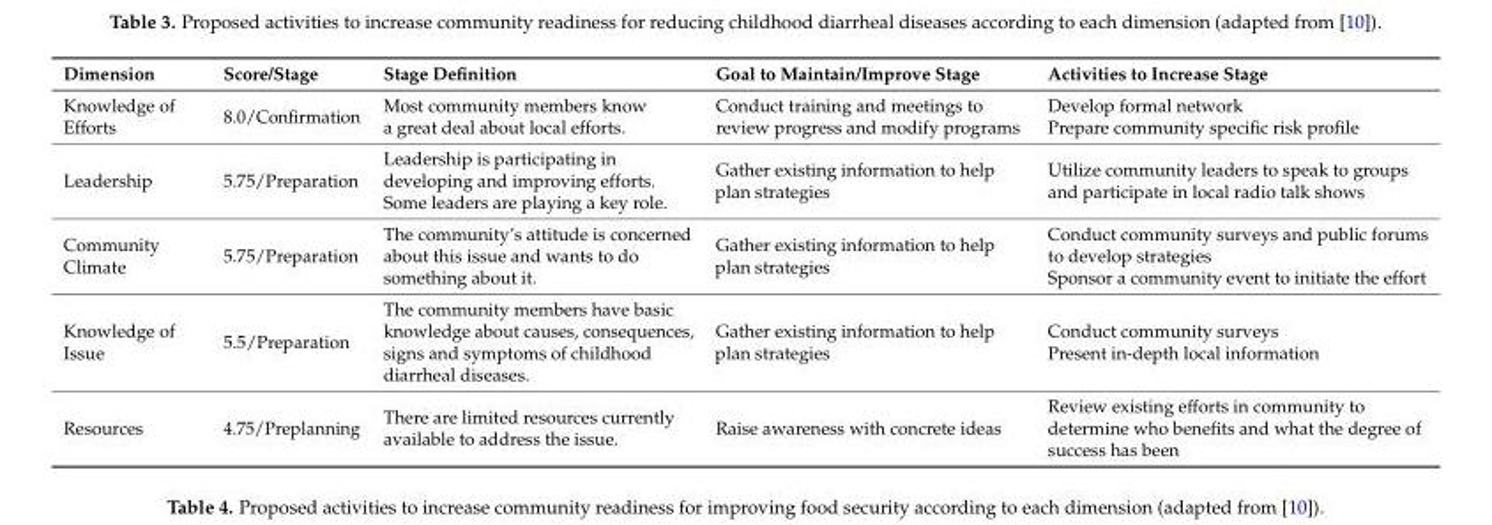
<table><thead><tr><td>Dimension</td><td>Score/Stage</td><td>Stage Definition</td><td>Goal to Maintain/Improve Stage</td><td>Activities to Increase Stage</td></tr></thead><tbody><tr><td>Knowledge of Efforts</td><td>8.0/Confirmation</td><td>Most community members know a great deal about local efforts.</td><td>Conduct training and meetings to review progress and modify programs</td><td>Develop formal network Prepare community specific risk profile</td></tr><tr><td>Leadership</td><td>5.75/Preparation</td><td>Leadership is participating in developing and improving efforts. Some leaders are playing a key role.</td><td>Gather existing information to help plan strategies</td><td>Utilize community leaders to speak to groups and participate in local radio talk shows</td></tr><tr><td>Community Climate</td><td>5.75/Preparation</td><td>The community’s attitude is concerned about this issue and wants to do something about it.</td><td>Gather existing information to help plan strategies</td><td>Conduct community surveys and public forums to develop strategies Sponsor a community event to initiate the effort</td></tr><tr><td>Knowledge of Issue</td><td>5.5/Preparation</td><td>The community members have basic knowledge about causes, consequences, signs and symptoms of childhood diarrheal diseases.</td><td>Gather existing information to help plan strategies</td><td>Conduct community surveys Present in-depth local information</td></tr><tr><td>Resources</td><td>4.75/Preplanning</td><td>There are limited resources currently available to address the issue.</td><td>Raise awareness with concrete ideas</td><td>Review existing efforts in community to determine who benefits and what the degree of success has been</td></tr></tbody></table>